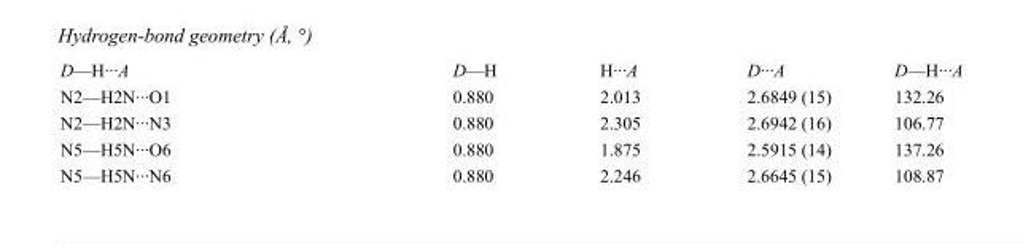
<table><tbody><tr><td>D—H···A</td><td>D—H</td><td>H···A</td><td>D···A</td><td>D—H···A</td></tr><tr><td>N2—H2N···O1</td><td>0.880</td><td>2.013</td><td>2.6849 (15)</td><td>132.26</td></tr><tr><td>N2—H2N···N3</td><td>0.880</td><td>2.305</td><td>2.6942 (16)</td><td>106.77</td></tr><tr><td>N5—H5N···O6</td><td>0.880</td><td>1.875</td><td>2.5915 (14)</td><td>137.26</td></tr><tr><td>N5—H5N···N6</td><td>0.880</td><td>2.246</td><td>2.6645 (15)</td><td>108.87</td></tr></tbody></table>